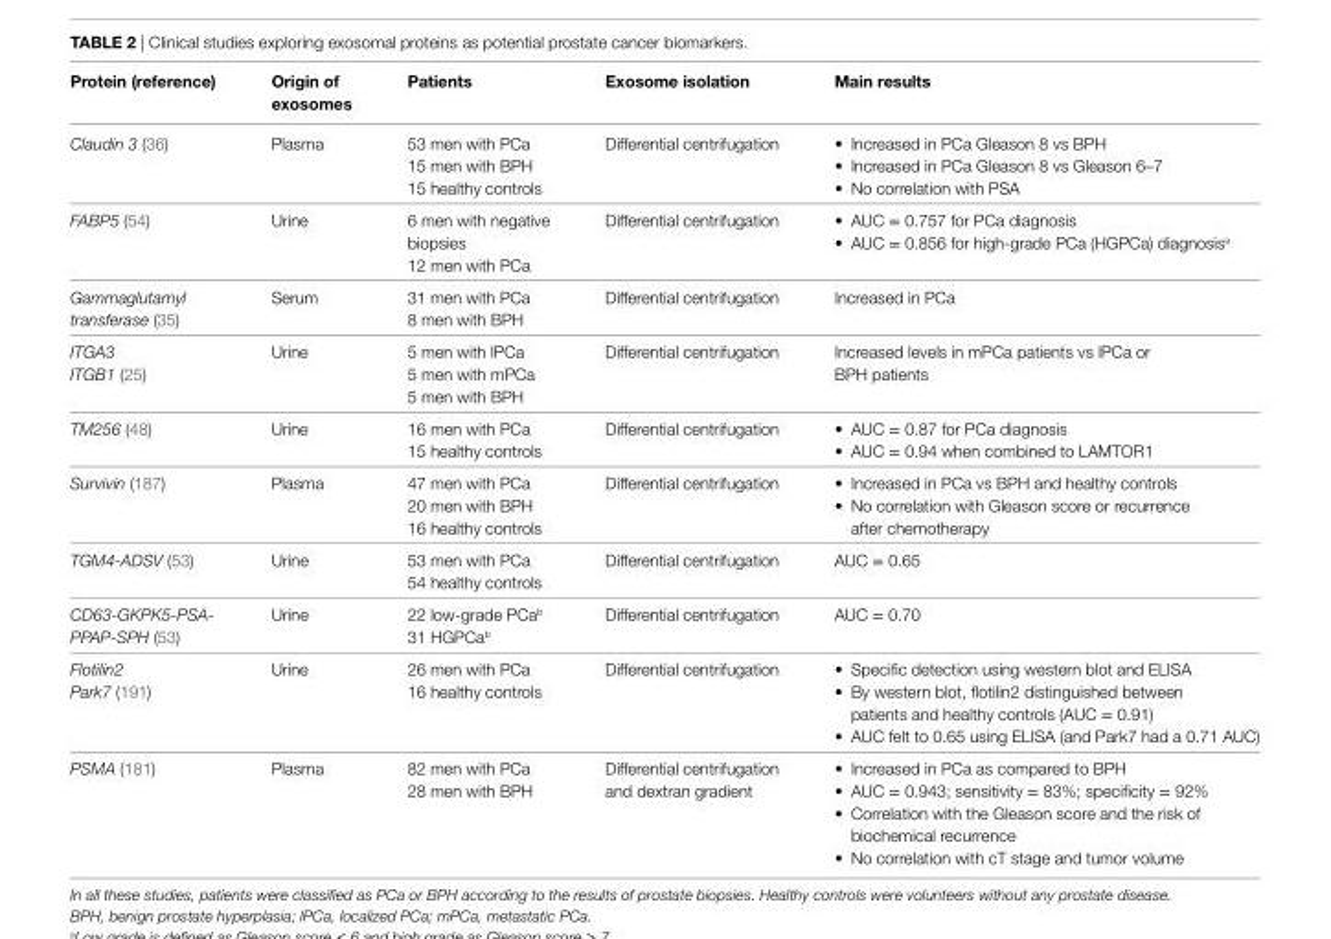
<table><thead><tr><td>Protein (reference)</td><td>Origin of exosomes</td><td>Patients</td><td>exosome isolation</td><td>Main results</td></tr></thead><tbody><tr><td>Claudin 3 (36)</td><td>Plasma</td><td>53 men with PCa 15 men with BPH 15 healthy controls</td><td>Differential centrifugation</td><td>• Increased in PCa Gleason 8 vs BPH • Increased in PCa Gleason 8 vs Gleason 6–7 • No correlation with PSA</td></tr><tr><td>FABP5 (54)</td><td>Urine</td><td>6 men with negative biopsies 12 men with PCa</td><td>Differential centrifugation</td><td>• AUC = 0.757 for PCa diagnosis • AUC = 0.856 for high-grade PCa (HGPCa) diagnosisa</td></tr><tr><td>Gammaglutamyl transferase (35)</td><td>Serum</td><td>31 men with PCa 8 men with BPH</td><td>Differential centrifugation</td><td>Increased in PCa</td></tr><tr><td>ITGA3 ITGB1 (25)</td><td>Urine</td><td>5 men with lPCa 5 men with mPCa 5 men with BPH</td><td>Differential centrifugation</td><td>Increased levels in mPCa patients vs lPCa or BPH patients</td></tr><tr><td>TM256 (48)</td><td>Urine</td><td>16 men with PCa 15 healthy controls</td><td>Differential centrifugation</td><td>• AUC = 0.87 for PCa diagnosis • AUC = 0.94 when combined to LAMTOR1</td></tr><tr><td>Survivin (187)</td><td>Plasma</td><td>47 men with PCa 20 men with BPH 16 healthy controls</td><td>Differential centrifugation</td><td>• Increased in PCa vs BPH and healthy controls • No correlation with Gleason score or recurrence after chemotherapy</td></tr><tr><td>TGM4-ADSV (53)</td><td>Urine</td><td>53 men with PCa 54 healthy controls</td><td>Differential centrifugation</td><td>AUC = 0.65</td></tr><tr><td>CD63-GKPK5-PSA- PPAP-SPH (53)</td><td>Urine</td><td>22 low-grade PCa<sup>b</sup> 31 HGPCa<sup>b</sup></td><td>Differential centrifugation</td><td>AUC = 0.70</td></tr><tr><td>Flotilin2 Park7 (191)</td><td>Urine</td><td>26 men with PCa 16 healthy controls</td><td>Differential centrifugation</td><td>• Specific detection using western blot and ELISA • By western blot, flotilin2 distinguished between patients and healthy controls (AUC = 0.91) • AUC felt to 0.65 using ELISA (and Park7 had a 0.71 AUC)</td></tr><tr><td>PSMA (181)</td><td>Plasma</td><td>82 men with PCa 28 men with BPH</td><td>Differential centrifugation and dextran gradient</td><td>• Increased in PCa as compared to BPH • AUC = 0.943; sensitivity = 83%; specificity = 92% • Correlation with the Gleason score and the risk of biochemical recurrence • No correlation with cT stage and tumor volume</td></tr></tbody></table>